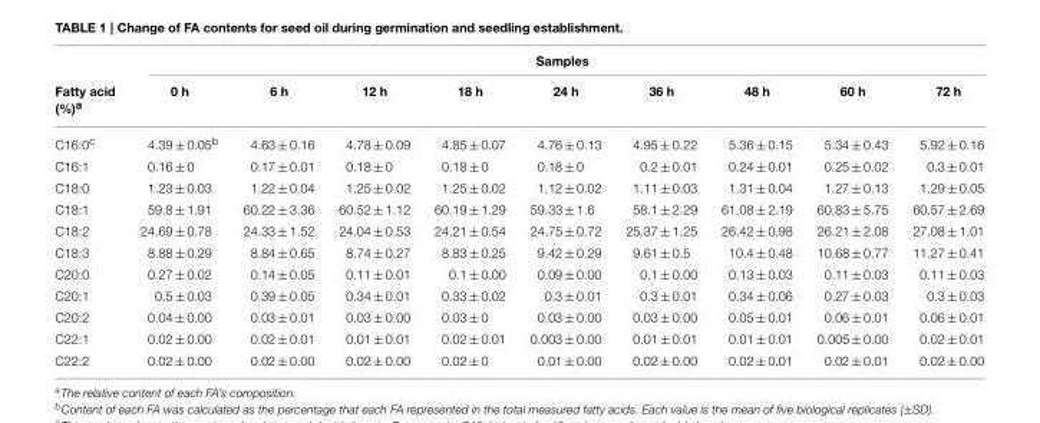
<table><thead><tr><td rowspan="2">Fatty acid (%)<sup>a</sup></td><td colspan="9">Samples</td></tr><tr><td>0 h</td><td>6 h</td><td>12 h</td><td>18 h</td><td>24 h</td><td>36 h</td><td>48 h</td><td>60 h</td><td>72 h</td></tr></thead><tbody><tr><td>C16:0<sup>c</sup></td><td>4.39 ± 0.05<sup>b</sup></td><td>4.63 ± 0.16</td><td>4.78 ± 0.09</td><td>4.85 ± 0.07</td><td>4.76 ± 0.13</td><td>4.95 ± 0.22</td><td>5.36 ± 0.15</td><td>5.34 ± 0.43</td><td>5.92 ± 0.16</td></tr><tr><td>C16:1</td><td>0.16 ± 0</td><td>0.17 ± 0.01</td><td>0.18 ± 0</td><td>0.18 ± 0</td><td>0.18 ± 0</td><td>0.2 ± 0.01</td><td>0.24 ± 0.01</td><td>0.25 ± 0.02</td><td>0.3 ± 0.01</td></tr><tr><td>C18:0</td><td>1.23 ± 0.03</td><td>1.22 ± 0.04</td><td>1.25 ± 0.02</td><td>1.25 ± 0.02</td><td>1.12 ± 0.02</td><td>1.11 ± 0.03</td><td>1.31 ± 0.04</td><td>1.27 ± 0.13</td><td>1.29 ± 0.05</td></tr><tr><td>C18:1</td><td>59.8 ± 1.91</td><td>60.22 ± 3.36</td><td>60.52 ± 1.12</td><td>60.19 ± 1.29</td><td>59.33 ± 1.6</td><td>58.1 ± 2.29</td><td>61.08 ± 2.19</td><td>60.83 ± 5.75</td><td>60.57 ± 2.69</td></tr><tr><td>C18:2</td><td>24.69 ± 0.78</td><td>24.33 ± 1.52</td><td>24.04 ± 0.53</td><td>24.21 ± 0.54</td><td>24.75 ± 0.72</td><td>25.37 ± 1.25</td><td>26.42 ± 0.98</td><td>26.21 ± 2.08</td><td>27.08 ± 1.01</td></tr><tr><td>C18:3</td><td>8.88 ± 0.29</td><td>8.84 ± 0.65</td><td>8.74 ± 0.27</td><td>8.83 ± 0.25</td><td>9.42 ± 0.29</td><td>9.61 ± 0.5</td><td>10.4 ± 0.48</td><td>10.68 ± 0.77</td><td>11.27 ± 0.41</td></tr><tr><td>C20:0</td><td>0.27 ± 0.02</td><td>0.14 ± 0.05</td><td>0.11 ± 0.01</td><td>0.1 ± 0.00</td><td>0.09 ± 0.00</td><td>0.1 ± 0.00</td><td>0.13 ± 0.03</td><td>0.11 ± 0.03</td><td>0.11 ± 0.03</td></tr><tr><td>C20:1</td><td>0.5 ± 0.03</td><td>0.39 ± 0.05</td><td>0.34 ± 0.01</td><td>0.33 ± 0.02</td><td>0.3 ± 0.01</td><td>0.3 ± 0.01</td><td>0.34 ± 0.06</td><td>0.27 ± 0.03</td><td>0.3 ± 0.03</td></tr><tr><td>C20:2</td><td>0.04 ± 0.00</td><td>0.03 ± 0.01</td><td>0.03 ± 0.00</td><td>0.03 ± 0</td><td>0.03 ± 0.00</td><td>0.03 ± 0.00</td><td>0.05 ± 0.01</td><td>0.06 ± 0.01</td><td>0.06 ± 0.01</td></tr><tr><td>C22:1</td><td>0.02 ± 0.00</td><td>0.02 ± 0.01</td><td>0.01 ± 0.01</td><td>0.02 ± 0.01</td><td>0.003 ± 0.00</td><td>0.01 ± 0.01</td><td>0.01 ± 0.01</td><td>0.005 ± 0.00</td><td>0.02 ± 0.01</td></tr><tr><td>C22:2</td><td>0.02 ± 0.00</td><td>0.02 ± 0.00</td><td>0.02 ± 0.00</td><td>0.02 ± 0</td><td>0.01 ± 0.00</td><td>0.02 ± 0.00</td><td>0.02 ± 0.01</td><td>0.02 ± 0.01</td><td>0.02 ± 0.00</td></tr></tbody></table>